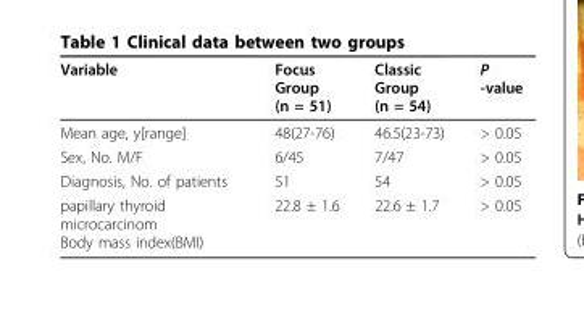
<table><thead><tr><td>Variable</td><td>Focus Group (n = 51)</td><td>Classic Group (n = 54)</td><td>P -value</td></tr></thead><tbody><tr><td>Mean age, y[range]</td><td>48(27-76)</td><td>46.5(23-73)</td><td>&gt; 0.05</td></tr><tr><td>Sex, No. M/F</td><td>6/45</td><td>7/47</td><td>&gt; 0.05</td></tr><tr><td>Diagnosis, No. of patients</td><td>51</td><td>54</td><td>&gt; 0.05</td></tr><tr><td>papillary thyroid microcarcinom Body mass index(BMI)</td><td>22.8 ± 1.6</td><td>22.6 ± 1.7</td><td>&gt; 0.05</td></tr></tbody></table>